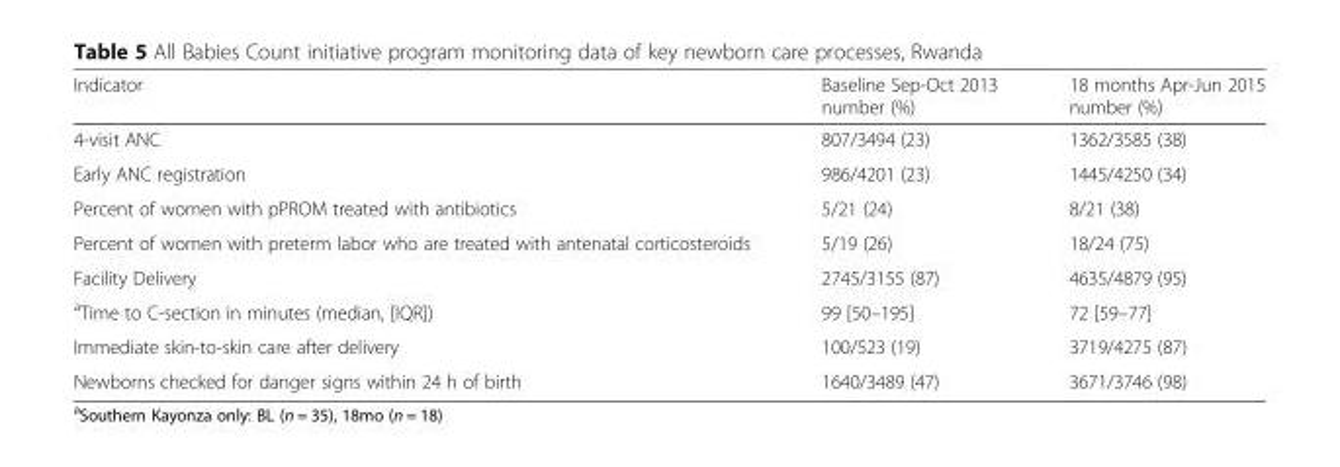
<table><thead><tr><td>Indicator</td><td>Baseline Sep-Oct 2013 number (%)</td><td>18 months Apr-Jun 2015 number (%)</td></tr></thead><tbody><tr><td>4-visit ANC</td><td>807/3494 (23)</td><td>1362/3585 (38)</td></tr><tr><td>Early ANC registration</td><td>986/4201 (23)</td><td>1445/4250 (34)</td></tr><tr><td>Percent of women with pPROM treated with antibiotics</td><td>5/21 (24)</td><td>8/21 (38)</td></tr><tr><td>Percent of women with preterm labor who are treated with antenatal corticosteroids</td><td>5/19 (26)</td><td>18/24 (75)</td></tr><tr><td>Facility Delivery</td><td>2745/3155 (87)</td><td>4635/4879 (95)</td></tr><tr><td><sup>a</sup>Time to C-section in minutes (median, [IQR])</td><td>99 [50–195]</td><td>72 [59–77]</td></tr><tr><td>Immediate skin-to-skin care after delivery</td><td>100/523 (19)</td><td>3719/4275 (87)</td></tr><tr><td>Newborns checked for danger signs within 24 h of birth</td><td>1640/3489 (47)</td><td>3671/3746 (98)</td></tr></tbody></table>